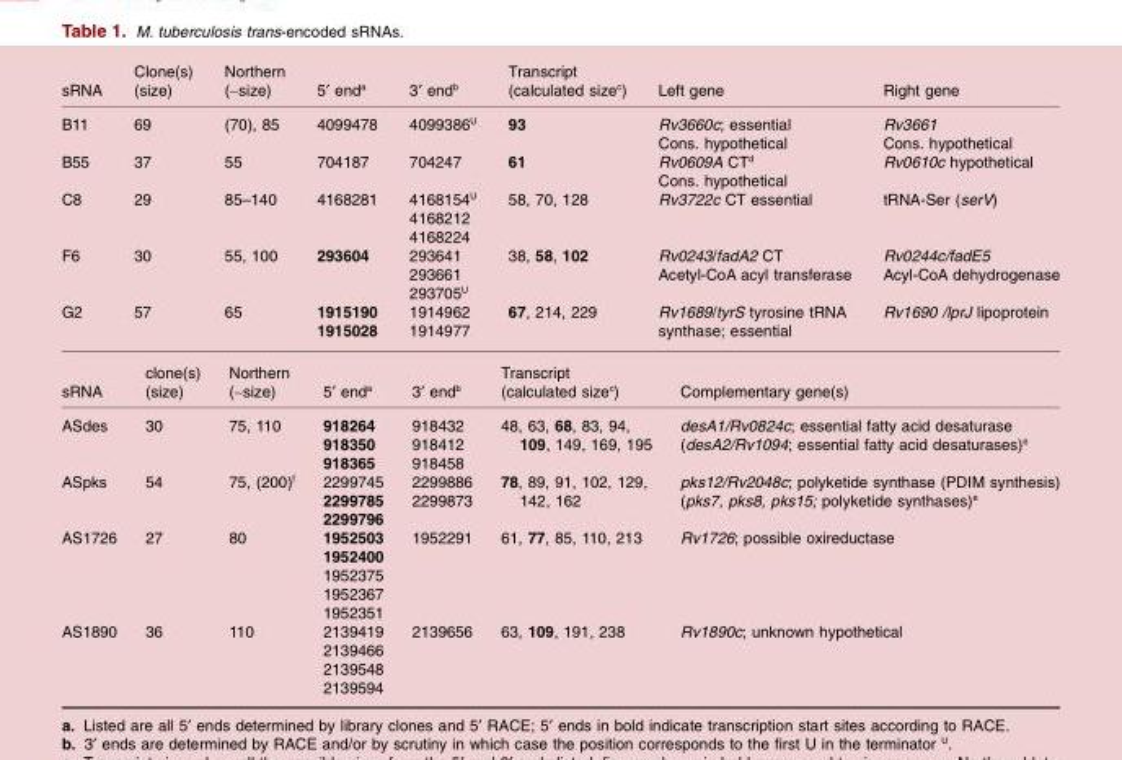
<table><thead><tr><td>sRNA</td><td>Clone(s) (size)</td><td>Northern (~size)</td><td>5′ end<sup>a</sup></td><td>3′ end<sup>b</sup></td><td>Transcript (calculated size<sup>c</sup>)</td><td>Left gene</td><td>Right gene</td></tr></thead><tbody><tr><td>B11</td><td>69</td><td>(70), 85</td><td>4099478</td><td>4099386<sup>U</sup></td><td>93</td><td>Rv3660c; essential Cons. hypothetical</td><td>Rv3661 Cons. hypothetical</td></tr><tr><td>B55</td><td>37</td><td>55</td><td>704187</td><td>704247</td><td>61</td><td>Rv0609A CT<sup>d</sup> Cons. hypothetical</td><td>Rv0610c hypothetical</td></tr><tr><td>C8</td><td>29</td><td>85–140</td><td>4168281</td><td>4168154<sup>U</sup> 4168212 4168224</td><td>58, 70, 128</td><td>Rv3722c CT essential</td><td>tRNA-Ser (serV)</td></tr><tr><td>F6</td><td>30</td><td>55, 100</td><td>293604</td><td>293641 293661 293705<sup>U</sup></td><td>38, 58, 102</td><td>Rv0243/fadA2 CT Acetyl-CoA acyl transferase</td><td>Rv0244c/fadE5 Acyl-CoA dehydrogenase</td></tr><tr><td>G2</td><td>57</td><td>65</td><td>1915190 1915028</td><td>1914962 1914977</td><td>67, 214, 229</td><td>Rv1689/tyrS tyrosine tRNA synthase; essential</td><td>Rv1690 /lprJ lipoprotein</td></tr><tr><td>sRNA</td><td>clone(s) (size)</td><td>Northern (~size)</td><td>5′ end<sup>a</sup></td><td>3′ end<sup>b</sup></td><td>Transcript (calculated size<sup>c</sup>)</td><td colspan="2">Complementary gene(s)</td></tr><tr><td>ASdes</td><td>30</td><td>75, 110</td><td>918264 918350 918365</td><td>918432 918412 918458</td><td>48, 63, 68, 83, 94, 109, 149, 169, 195</td><td colspan="2">desA1/Rv0824c; essential fatty acid desaturase (desA2/Rv1094; essential fatty acid desaturases)<sup>e</sup></td></tr><tr><td>ASpks</td><td>54</td><td>75, (200)<sup>f</sup></td><td>2299745 2299785 2299796</td><td>2299886 2299873</td><td>78, 89, 91, 102, 129, 142, 162</td><td colspan="2">pks12/Rv2048c; polyketide synthase (PDIM synthesis) (pks7, pks8, pks15; polyketide synthases)<sup>e</sup></td></tr><tr><td>AS1726</td><td>27</td><td>80</td><td>1952503 1952400 1952375 1952367 1952351</td><td>1952291</td><td>61, 77, 85, 110, 213</td><td colspan="2">Rv1726; possible oxireductase</td></tr><tr><td>AS1890</td><td>36</td><td>110</td><td>2139419 2139466 2139548 2139594</td><td>2139656</td><td>63, 109, 191, 238</td><td colspan="2">Rv1890c; unknown hypothetical</td></tr></tbody></table>